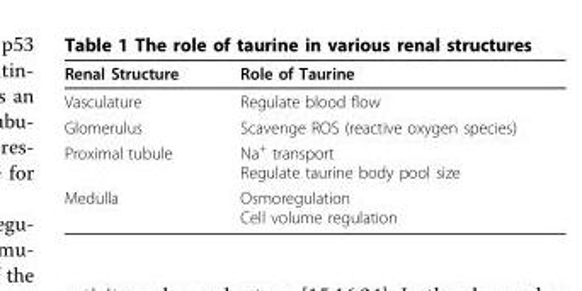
<table><thead><tr><td>Renal Structure</td><td>Role of Taurine</td></tr></thead><tbody><tr><td>Vasculature</td><td>Regulate blood flow</td></tr><tr><td>Glomerulus</td><td>Scavenge ROS (reactive oxygen species)</td></tr><tr><td>Proximal tubule</td><td>Na<sup>+</sup> transport Regulate taurine body pool size</td></tr><tr><td>Medulla</td><td>Osmoregulation Cell volume regulation</td></tr></tbody></table>